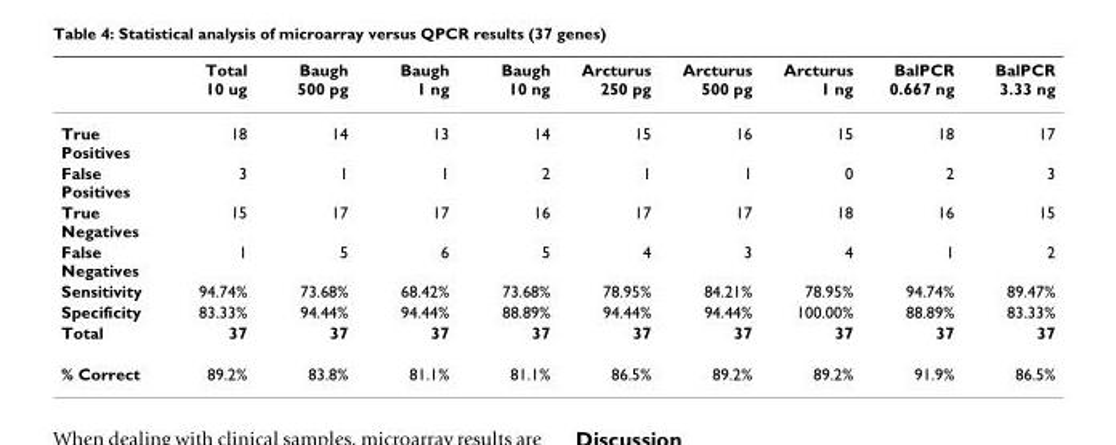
<table><thead><tr><td></td><td>Total 10 ug</td><td>Baugh 500 pg</td><td>Baugh 1 ng</td><td>Baugh 10 ng</td><td>Arcturus 250 pg</td><td>Arcturus 500 pg</td><td>Arcturus 1 ng</td><td>BalPCR 0.667 ng</td><td>BalPCR 3.33 ng</td></tr></thead><tbody><tr><td>True Positives</td><td>18</td><td>14</td><td>13</td><td>14</td><td>15</td><td>16</td><td>15</td><td>18</td><td>17</td></tr><tr><td>False Positives</td><td>3</td><td>1</td><td>1</td><td>2</td><td>1</td><td>1</td><td>0</td><td>2</td><td>3</td></tr><tr><td>True Negatives</td><td>15</td><td>17</td><td>17</td><td>16</td><td>17</td><td>17</td><td>18</td><td>16</td><td>15</td></tr><tr><td>False Negatives</td><td>1</td><td>5</td><td>6</td><td>5</td><td>4</td><td>3</td><td>4</td><td>1</td><td>2</td></tr><tr><td>Sensitivity</td><td>94.74%</td><td>73.68%</td><td>68.42%</td><td>73.68%</td><td>78.95%</td><td>84.21%</td><td>78.95%</td><td>94.74%</td><td>89.47%</td></tr><tr><td>Specificity</td><td>83.33%</td><td>94.44%</td><td>94.44%</td><td>88.89%</td><td>94.44%</td><td>94.44%</td><td>100.00%</td><td>88.89%</td><td>83.33%</td></tr><tr><td>Total</td><td>37</td><td>37</td><td>37</td><td>37</td><td>37</td><td>37</td><td>37</td><td>37</td><td>37</td></tr><tr><td>% Correct</td><td>89.2%</td><td>83.8%</td><td>81.1%</td><td>81.1%</td><td>86.5%</td><td>89.2%</td><td>89.2%</td><td>91.9%</td><td>86.5%</td></tr></tbody></table>